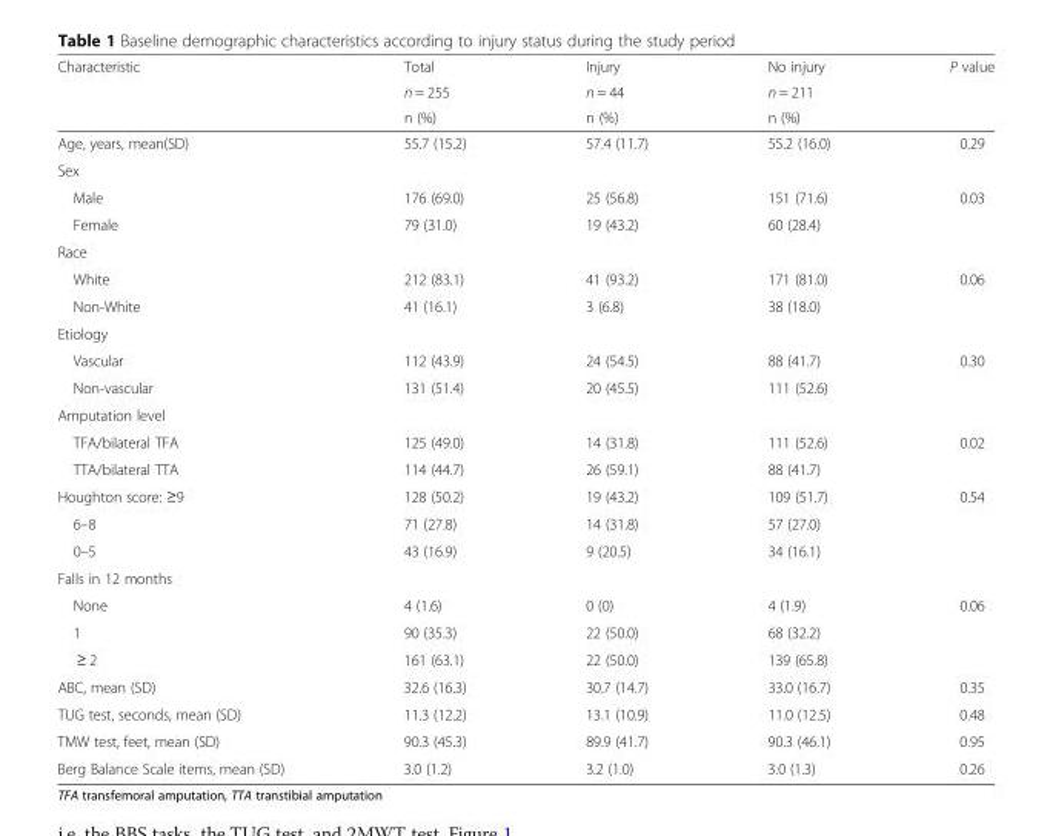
<table><thead><tr><td rowspan="3">Characteristic</td><td rowspan="3">Total n = 255 n (%)</td><td rowspan="3">Injury n = 44 n (%)</td><td rowspan="3">No injury n = 211 n (%)</td><td rowspan="3">P value</td></tr><tr></tr><tr></tr></thead><tbody><tr><td>Age, years, mean(SD)</td><td>55.7 (15.2)</td><td>57.4 (11.7)</td><td>55.2 (16.0)</td><td>0.29</td></tr><tr><td colspan="5">Sex</td></tr><tr><td>Male</td><td>176 (69.0)</td><td>25 (56.8)</td><td>151 (71.6)</td><td>0.03</td></tr><tr><td>Female</td><td>79 (31.0)</td><td>19 (43.2)</td><td>60 (28.4)</td><td></td></tr><tr><td colspan="5">Race</td></tr><tr><td>White</td><td>212 (83.1)</td><td>41 (93.2)</td><td>171 (81.0)</td><td>0.06</td></tr><tr><td>Non-White</td><td>41 (16.1)</td><td>3 (6.8)</td><td>38 (18.0)</td><td></td></tr><tr><td colspan="5">Etiology</td></tr><tr><td>Vascular</td><td>112 (43.9)</td><td>24 (54.5)</td><td>88 (41.7)</td><td>0.30</td></tr><tr><td>Non-vascular</td><td>131 (51.4)</td><td>20 (45.5)</td><td>111 (52.6)</td><td></td></tr><tr><td colspan="5">Amputation level</td></tr><tr><td>TFA/bilateral TFA</td><td>125 (49.0)</td><td>14 (31.8)</td><td>111 (52.6)</td><td>0.02</td></tr><tr><td>TTA/bilateral TTA</td><td>114 (44.7)</td><td>26 (59.1)</td><td>88 (41.7)</td><td></td></tr><tr><td>Houghton score: ≥9</td><td>128 (50.2)</td><td>19 (43.2)</td><td>109 (51.7)</td><td>0.54</td></tr><tr><td>6–8</td><td>71 (27.8)</td><td>14 (31.8)</td><td>57 (27.0)</td><td></td></tr><tr><td>0–5</td><td>43 (16.9)</td><td>9 (20.5)</td><td>34 (16.1)</td><td></td></tr><tr><td colspan="5">Falls in 12 months</td></tr><tr><td>None</td><td>4 (1.6)</td><td>0 (0)</td><td>4 (1.9)</td><td>0.06</td></tr><tr><td>1</td><td>90 (35.3)</td><td>22 (50.0)</td><td>68 (32.2)</td><td></td></tr><tr><td>≥ 2</td><td>161 (63.1)</td><td>22 (50.0)</td><td>139 (65.8)</td><td></td></tr><tr><td>ABC, mean (SD)</td><td>32.6 (16.3)</td><td>30.7 (14.7)</td><td>33.0 (16.7)</td><td>0.35</td></tr><tr><td>TUG test, seconds, mean (SD)</td><td>11.3 (12.2)</td><td>13.1 (10.9)</td><td>11.0 (12.5)</td><td>0.48</td></tr><tr><td>TMW test, feet, mean (SD)</td><td>90.3 (45.3)</td><td>89.9 (41.7)</td><td>90.3 (46.1)</td><td>0.95</td></tr><tr><td>Berg Balance Scale items, mean (SD)</td><td>3.0 (1.2)</td><td>3.2 (1.0)</td><td>3.0 (1.3)</td><td>0.26</td></tr></tbody></table>